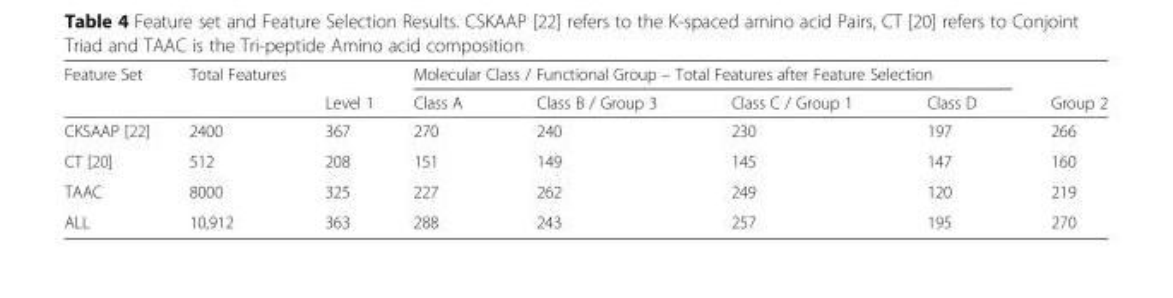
<table><thead><tr><td rowspan="2">Feature Set</td><td rowspan="2">Total Features</td><td rowspan="2">Level 1</td><td colspan="4">Molecular Class / Functional Group – Total Features after Feature Selection</td><td rowspan="2">Group 2</td></tr><tr><td>Class A</td><td>Class B / Group 3</td><td>Class C / Group 1</td><td>Class D</td></tr></thead><tbody><tr><td>CKSAAP [22]</td><td>2400</td><td>367</td><td>270</td><td>240</td><td>230</td><td>197</td><td>266</td></tr><tr><td>CT [20]</td><td>512</td><td>208</td><td>151</td><td>149</td><td>145</td><td>147</td><td>160</td></tr><tr><td>TAAC</td><td>8000</td><td>325</td><td>227</td><td>262</td><td>249</td><td>120</td><td>219</td></tr><tr><td>ALL</td><td>10,912</td><td>363</td><td>288</td><td>243</td><td>257</td><td>195</td><td>270</td></tr></tbody></table>